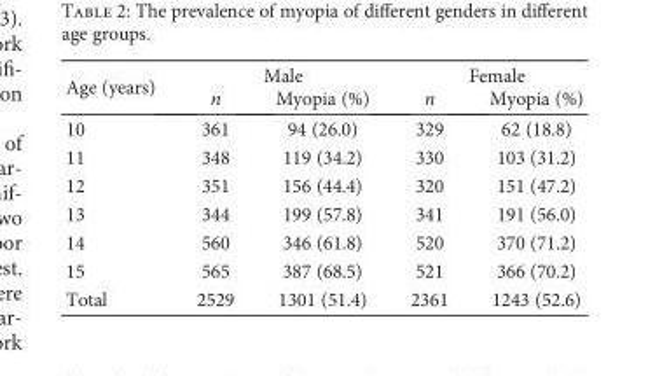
<table><thead><tr><td rowspan="2">Age (years)</td><td colspan="2">Male</td><td colspan="2">Female</td></tr><tr><td>n</td><td>Myopia (%)</td><td>n</td><td>Myopia (%)</td></tr></thead><tbody><tr><td>10</td><td>361</td><td>94 (26.0)</td><td>329</td><td>62 (18.8)</td></tr><tr><td>11</td><td>348</td><td>119 (34.2)</td><td>330</td><td>103 (31.2)</td></tr><tr><td>12</td><td>351</td><td>156 (44.4)</td><td>320</td><td>151 (47.2)</td></tr><tr><td>13</td><td>344</td><td>199 (57.8)</td><td>341</td><td>191 (56.0)</td></tr><tr><td>14</td><td>560</td><td>346 (61.8)</td><td>520</td><td>370 (71.2)</td></tr><tr><td>15</td><td>565</td><td>387 (68.5)</td><td>521</td><td>366 (70.2)</td></tr><tr><td>Total</td><td>2529</td><td>1301 (51.4)</td><td>2361</td><td>1243 (52.6)</td></tr></tbody></table>